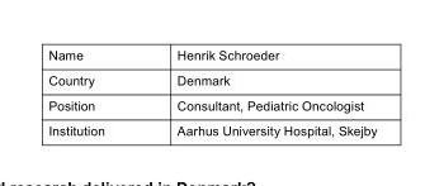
<table><tbody><tr><td>Name</td><td>Henrik Schroeder</td></tr><tr><td>Country</td><td>Denmark</td></tr><tr><td>Position</td><td>Consultant, Pediatric Oncologist</td></tr><tr><td>Institution</td><td>Aarhus University Hospital, Skejby</td></tr></tbody></table>